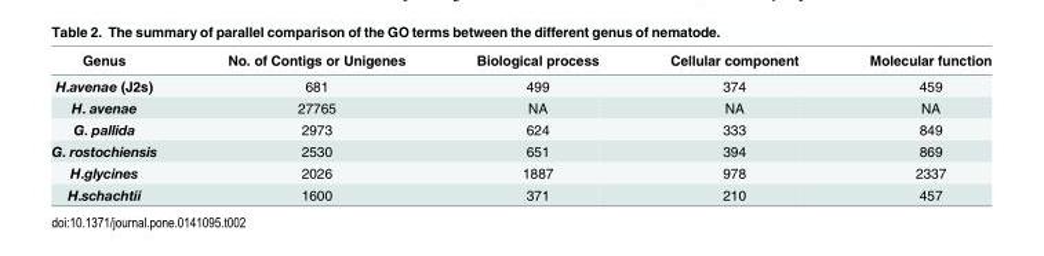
<table><thead><tr><td>Genus</td><td>No. of Contigs or Unigenes</td><td>Biological process</td><td>Cellular component</td><td>Molecular function</td></tr></thead><tbody><tr><td>H.avenae (J2s)</td><td>681</td><td>499</td><td>374</td><td>459</td></tr><tr><td>H. avenae</td><td>27765</td><td>NA</td><td>NA</td><td>NA</td></tr><tr><td>G. pallida</td><td>2973</td><td>624</td><td>333</td><td>849</td></tr><tr><td>G. rostochiensis</td><td>2530</td><td>651</td><td>394</td><td>869</td></tr><tr><td>H.glycines</td><td>2026</td><td>1887</td><td>978</td><td>2337</td></tr><tr><td>H.schachtii</td><td>1600</td><td>371</td><td>210</td><td>457</td></tr></tbody></table>